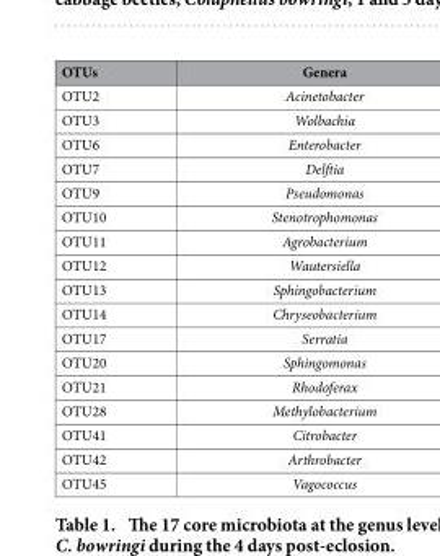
<table><thead><tr><td>OTUs</td><td>Genera</td></tr></thead><tbody><tr><td>OTU2</td><td>Acinetobacter</td></tr><tr><td>OTU3</td><td>Wolbachia</td></tr><tr><td>OTU6</td><td>Enterobacter</td></tr><tr><td>OTU7</td><td>Delftia</td></tr><tr><td>OTU9</td><td>Pseudomonas</td></tr><tr><td>OTU10</td><td>Stenotrophomonas</td></tr><tr><td>OTU11</td><td>Agrobacterium</td></tr><tr><td>OTU12</td><td>Wautersiella</td></tr><tr><td>OTU13</td><td>Sphingobacterium</td></tr><tr><td>OTU14</td><td>Chryseobacterium</td></tr><tr><td>OTU17</td><td>Serratia</td></tr><tr><td>OTU20</td><td>Sphingomonas</td></tr><tr><td>OTU21</td><td>Rhodoferax</td></tr><tr><td>OTU28</td><td>Methylobacterium</td></tr><tr><td>OTU41</td><td>Citrobacter</td></tr><tr><td>OTU42</td><td>Arthrobacter</td></tr><tr><td>OTU45</td><td>Vagococcus</td></tr></tbody></table>